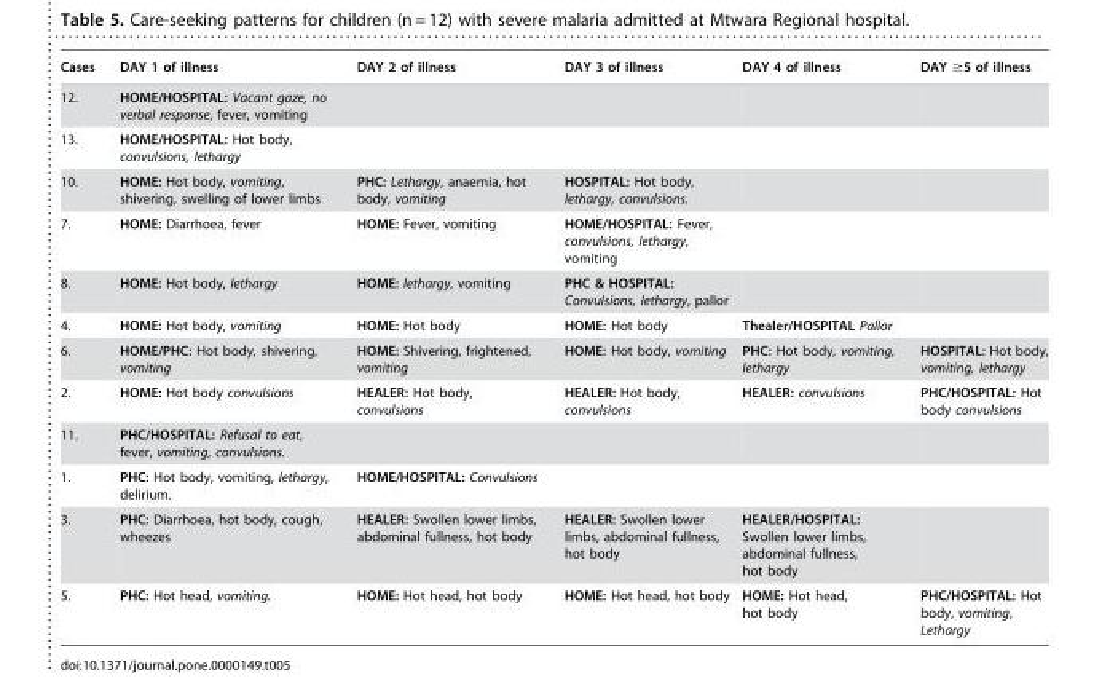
<table><thead><tr><td>Cases</td><td>DAY 1 of illness</td><td>DAY 2 of illness</td><td>DAY 3 of illness</td><td>DAY 4 of illness</td><td>DAY ≥5 of illness</td></tr></thead><tbody><tr><td>12.</td><td>HOME/HOSPITAL: Vacant gaze, no verbal response, fever, vomiting</td><td></td><td></td><td></td><td></td></tr><tr><td>13.</td><td>HOME/HOSPITAL: Hot body, convulsions, lethargy</td><td></td><td></td><td></td><td></td></tr><tr><td>10.</td><td>HOME: Hot body, vomiting, shivering, swelling of lower limbs</td><td>PHC: Lethargy, anaemia, hot body, vomiting</td><td>HOSPITAL: Hot body, lethargy, convulsions.</td><td></td><td></td></tr><tr><td>7.</td><td>HOME: Diarrhoea, fever</td><td>HOME: Fever, vomiting</td><td>HOME/HOSPITAL: Fever, convulsions, lethargy, vomiting</td><td></td><td></td></tr><tr><td>8.</td><td>HOME: Hot body, lethargy</td><td>HOME: lethargy, vomiting</td><td>PHC &amp; HOSPITAL: Convulsions, lethargy, pallor</td><td></td><td></td></tr><tr><td>4.</td><td>HOME: Hot body, vomiting</td><td>HOME: Hot body</td><td>HOME: Hot body</td><td>Thealer/HOSPITAL Pallor</td><td></td></tr><tr><td>6.</td><td>HOME/PHC: Hot body, shivering, vomiting</td><td>HOME: Shivering, frightened, vomiting</td><td>HOME: Hot body, vomiting</td><td>PHC: Hot body, vomiting, lethargy</td><td>HOSPITAL: Hot body, vomiting, lethargy</td></tr><tr><td>2.</td><td>HOME: Hot body convulsions</td><td>HEALER: Hot body, convulsions</td><td>HEALER: Hot body, convulsions</td><td>HEALER: convulsions</td><td>PHC/HOSPITAL: Hot body convulsions</td></tr><tr><td>11.</td><td>PHC/HOSPITAL: Refusal to eat, fever, vomiting, convulsions.</td><td></td><td></td><td></td><td></td></tr><tr><td>1.</td><td>PHC: Hot body, vomiting, lethargy, delirium.</td><td>HOME/HOSPITAL: Convulsions</td><td></td><td></td><td></td></tr><tr><td>3.</td><td>PHC: Diarrhoea, hot body, cough, wheezes</td><td>HEALER: Swollen lower limbs, abdominal fullness, hot body</td><td>HEALER: Swollen lower limbs, abdominal fullness, hot body</td><td>HEALER/HOSPITAL: Swollen lower limbs, abdominal fullness, hot body</td><td></td></tr><tr><td>5.</td><td>PHC: Hot head, vomiting.</td><td>HOME: Hot head, hot body</td><td>HOME: Hot head, hot body</td><td>HOME: Hot head, hot body</td><td>PHC/HOSPITAL: Hot body, vomiting, Lethargy</td></tr></tbody></table>